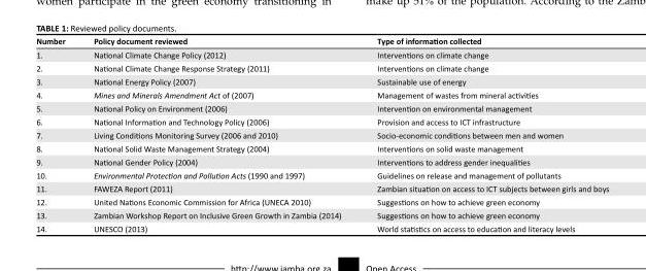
<table><thead><tr><td>Number</td><td>Policy document reviewed</td><td>Type of information collected</td></tr></thead><tbody><tr><td>1.</td><td>National Climate Change Policy (2012)</td><td>Interventions on climate change</td></tr><tr><td>2.</td><td>National Climate Change Response Strategy (2011)</td><td>Interventions on climate change</td></tr><tr><td>3.</td><td>National Energy Policy (2007)</td><td>Sustainable use of energy</td></tr><tr><td>4.</td><td>Mines and Minerals Amendment Act of (2007)</td><td>Management of wastes from mineral activities</td></tr><tr><td>5.</td><td>National Policy on Environment (2006)</td><td>Intervention on environmental management</td></tr><tr><td>6.</td><td>National Information and Technology Policy (2006)</td><td>Provision and access to ICT infrastructure</td></tr><tr><td>7.</td><td>Living Conditions Monitoring Survey (2006 and 2010)</td><td>Socio-economic conditions between men and women</td></tr><tr><td>8.</td><td>National Solid Waste Management Strategy (2004)</td><td>Interventions on solid waste management</td></tr><tr><td>9.</td><td>National Gender Policy (2004)</td><td>Interventions to address gender inequalities</td></tr><tr><td>10.</td><td>Environmental Protection and Pollution Acts (1990 and 1997)</td><td>Guidelines on release and management of pollutants</td></tr><tr><td>11.</td><td>FAWEZA Report (2011)</td><td>Zambian situation on access to ICT subjects between girls and boys</td></tr><tr><td>12.</td><td>United Nations Economic Commission for Africa (UNECA 2010)</td><td>Suggestions on how to achieve green economy</td></tr><tr><td>13.</td><td>Zambian Workshop Report on Inclusive Green Growth in Zambia (2014)</td><td>Suggestions on how to achieve green economy</td></tr><tr><td>14.</td><td>UNESCO (2013)</td><td>World statistics on access to education and literacy levels</td></tr></tbody></table>